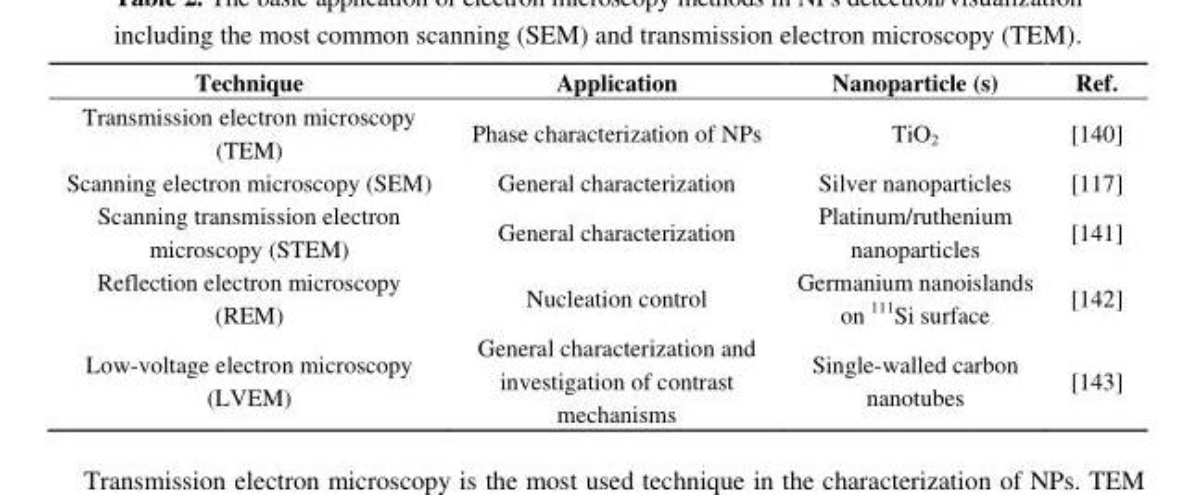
<table><thead><tr><td>Technique</td><td>Application</td><td>Nanoparticle (s)</td><td>Ref.</td></tr></thead><tbody><tr><td>Transmission electron microscopy (TEM)</td><td>Phase characterization of NPs</td><td>TiO<sub>2</sub></td><td>[140]</td></tr><tr><td>Scanning electron microscopy (SEM)</td><td>General characterization</td><td>Silver nanoparticles</td><td>[117]</td></tr><tr><td>Scanning transmission electron microscopy (STEM)</td><td>General characterization</td><td>Platinum/ruthenium nanoparticles</td><td>[141]</td></tr><tr><td>Reflection electron microscopy (REM)</td><td>Nucleation control</td><td>Germanium nanoislands on <sup>111</sup>Si surface</td><td>[142]</td></tr><tr><td>Low-voltage electron microscopy (LVEM)</td><td>General characterization and investigation of contrast mechanisms</td><td>Single-walled carbon nanotubes</td><td>[143]</td></tr></tbody></table>